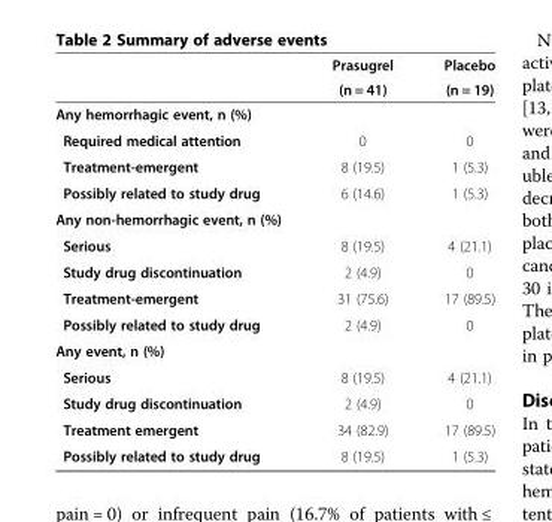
<table><thead><tr><td rowspan="2"></td><td rowspan="2">Prasugrel (n = 41)</td><td rowspan="2">Placebo (n = 19)</td></tr><tr></tr></thead><tbody><tr><td colspan="3">Any hemorrhagic event, n (%)</td></tr><tr><td>Required medical attention</td><td>0</td><td>0</td></tr><tr><td>Treatment-emergent</td><td>8 (19.5)</td><td>1 (5.3)</td></tr><tr><td>Possibly related to study drug</td><td>6 (14.6)</td><td>1 (5.3)</td></tr><tr><td colspan="3">Any non-hemorrhagic event, n (%)</td></tr><tr><td>Serious</td><td>8 (19.5)</td><td>4 (21.1)</td></tr><tr><td>Study drug discontinuation</td><td>2 (4.9)</td><td>0</td></tr><tr><td>Treatment-emergent</td><td>31 (75.6)</td><td>17 (89.5)</td></tr><tr><td>Possibly related to study drug</td><td>2 (4.9)</td><td>0</td></tr><tr><td colspan="3">Any event, n (%)</td></tr><tr><td>Serious</td><td>8 (19.5)</td><td>4 (21.1)</td></tr><tr><td>Study drug discontinuation</td><td>2 (4.9)</td><td>0</td></tr><tr><td>Treatment emergent</td><td>34 (82.9)</td><td>17 (89.5)</td></tr><tr><td>Possibly related to study drug</td><td>8 (19.5)</td><td>1 (5.3)</td></tr></tbody></table>